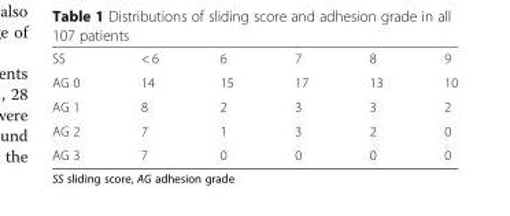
<table><tbody><tr><td>SS</td><td>&lt; 6</td><td>6</td><td>7</td><td>8</td><td>9</td></tr><tr><td>AG 0</td><td>14</td><td>15</td><td>17</td><td>13</td><td>10</td></tr><tr><td>AG 1</td><td>8</td><td>2</td><td>3</td><td>3</td><td>2</td></tr><tr><td>AG 2</td><td>7</td><td>1</td><td>3</td><td>2</td><td>0</td></tr><tr><td>AG 3</td><td>7</td><td>0</td><td>0</td><td>0</td><td>0</td></tr></tbody></table>